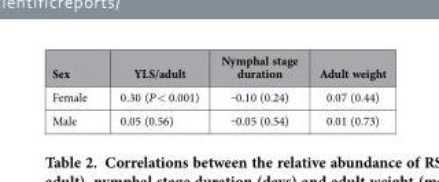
<table><thead><tr><td>Sex</td><td>YLS/adult</td><td>Nymphal stage duration</td><td>Adult weight</td></tr></thead><tbody><tr><td>Female</td><td>0.30 (P &lt; 0.001)</td><td>‒0.10 (0.24)</td><td>0.07 (0.44)</td></tr><tr><td>Male</td><td>0.05 (0.56)</td><td>‒0.05 (0.54)</td><td>0.01 (0.73)</td></tr></tbody></table>